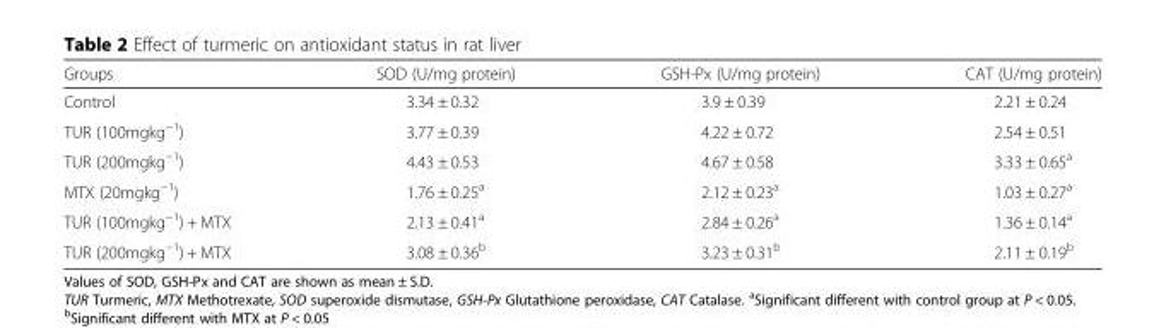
<table><thead><tr><td>Groups</td><td>SOD (U/mg protein)</td><td>GSH-Px (U/mg protein)</td><td>CAT (U/mg protein)</td></tr></thead><tbody><tr><td>Control</td><td>3.34 ± 0.32</td><td>3.9 ± 0.39</td><td>2.21 ± 0.24</td></tr><tr><td>TUR (100mgkg<sup>−1</sup>)</td><td>3.77 ± 0.39</td><td>4.22 ± 0.72</td><td>2.54 ± 0.51</td></tr><tr><td>TUR (200mgkg<sup>−1</sup>)</td><td>4.43 ± 0.53</td><td>4.67 ± 0.58</td><td>3.33 ± 0.65<sup>a</sup></td></tr><tr><td>MTX (20mgkg<sup>−1</sup>)</td><td>1.76 ± 0.25<sup>a</sup></td><td>2.12 ± 0.23<sup>a</sup></td><td>1.03 ± 0.27<sup>a</sup></td></tr><tr><td>TUR (100mgkg<sup>−1</sup>) + MTX</td><td>2.13 ± 0.41<sup>a</sup></td><td>2.84 ± 0.26<sup>a</sup></td><td>1.36 ± 0.14<sup>a</sup></td></tr><tr><td>TUR (200mgkg<sup>−1</sup>) + MTX</td><td>3.08 ± 0.36<sup>b</sup></td><td>3.23 ± 0.31<sup>b</sup></td><td>2.11 ± 0.19<sup>b</sup></td></tr></tbody></table>